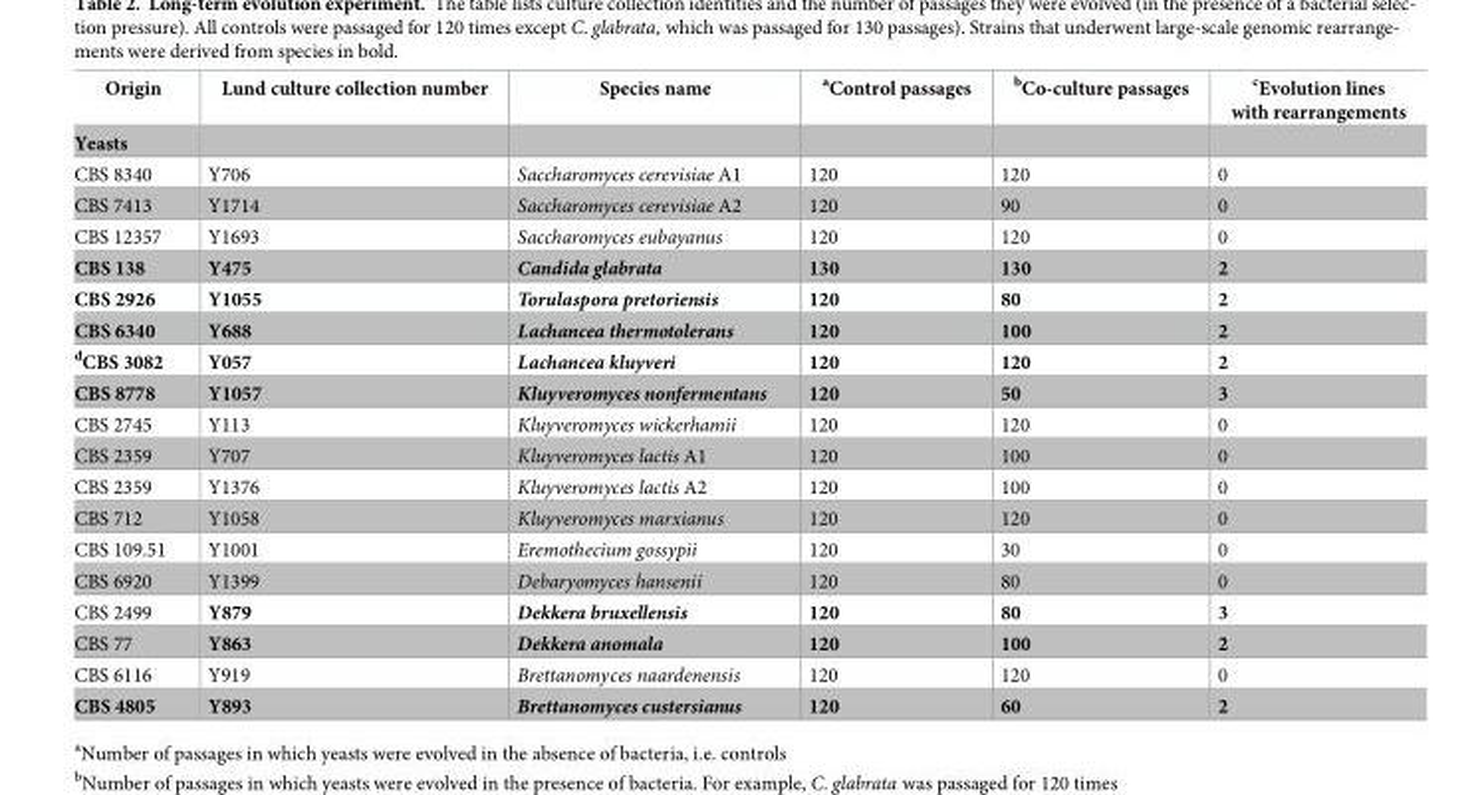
<table><thead><tr><td>Origin</td><td>Lund culture collection number</td><td>Species name</td><td><sup>a</sup>Control passages</td><td><sup>b</sup>Co-culture passages</td><td><sup>c</sup>Evolution lines with rearrangements</td></tr></thead><tbody><tr><td colspan="6">Yeasts</td></tr><tr><td>CBS 8340</td><td>Y706</td><td>Saccharomyces cerevisiae A1</td><td>120</td><td>120</td><td>0</td></tr><tr><td>CBS 7413</td><td>Y1714</td><td>Saccharomyces cerevisiae A2</td><td>120</td><td>90</td><td>0</td></tr><tr><td>CBS 12357</td><td>Y1693</td><td>Saccharomyces eubayanus</td><td>120</td><td>120</td><td>0</td></tr><tr><td>CBS 138</td><td>Y475</td><td>Candida glabrata</td><td>130</td><td>130</td><td>2</td></tr><tr><td>CBS 2926</td><td>Y1055</td><td>Torulaspora pretoriensis</td><td>120</td><td>80</td><td>2</td></tr><tr><td>CBS 6340</td><td>Y688</td><td>Lachancea thermotolerans</td><td>120</td><td>100</td><td>2</td></tr><tr><td><sup>d</sup>CBS 3082</td><td>Y057</td><td>Lachancea kluyveri</td><td>120</td><td>120</td><td>2</td></tr><tr><td>CBS 8778</td><td>Y1057</td><td>Kluyveromyces nonfermentans</td><td>120</td><td>50</td><td>3</td></tr><tr><td>CBS 2745</td><td>Y113</td><td>Kluyveromyces wickerhamii</td><td>120</td><td>120</td><td>0</td></tr><tr><td>CBS 2359</td><td>Y707</td><td>Kluyveromyces lactis A1</td><td>120</td><td>100</td><td>0</td></tr><tr><td>CBS 2359</td><td>Y1376</td><td>Kluyveromyces lactis A2</td><td>120</td><td>100</td><td>0</td></tr><tr><td>CBS 712</td><td>Y1058</td><td>Kluyveromyces marxianus</td><td>120</td><td>120</td><td>0</td></tr><tr><td>CBS 109.51</td><td>Y1001</td><td>Eremothecium gossypii</td><td>120</td><td>30</td><td>0</td></tr><tr><td>CBS 6920</td><td>Y1399</td><td>Debaryomyces hansenii</td><td>120</td><td>80</td><td>0</td></tr><tr><td>CBS 2499</td><td>Y879</td><td>Dekkera bruxellensis</td><td>120</td><td>80</td><td>3</td></tr><tr><td>CBS 77</td><td>Y863</td><td>Dekkera anomala</td><td>120</td><td>100</td><td>2</td></tr><tr><td>CBS 6116</td><td>Y919</td><td>Brettanomyces naardenensis</td><td>120</td><td>120</td><td>0</td></tr><tr><td>CBS 4805</td><td>Y893</td><td>Brettanomyces custersianus</td><td>120</td><td>60</td><td>2</td></tr></tbody></table>